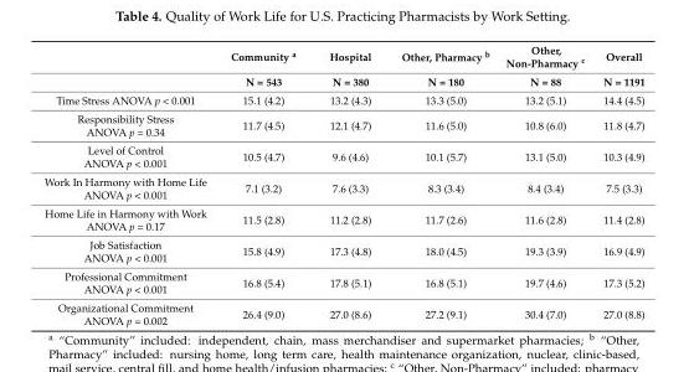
<table><thead><tr><td rowspan="2"></td><td rowspan="2">Community <sup>a</sup> N = 543</td><td rowspan="2">Hospital N = 380</td><td rowspan="2">Other, Pharmacy <sup>b</sup> N = 180</td><td rowspan="2">Other, Non-Pharmacy <sup>c</sup> N = 88</td><td rowspan="2">Overall N = 1191</td></tr><tr></tr></thead><tbody><tr><td>Time Stress ANOVA p &lt; 0.001</td><td>15.1 (4.2)</td><td>13.2 (4.3)</td><td>13.3 (5.0)</td><td>13.2 (5.1)</td><td>14.4 (4.5)</td></tr><tr><td>Responsibility Stress ANOVA p = 0.34</td><td>11.7 (4.5)</td><td>12.1 (4.7)</td><td>11.6 (5.0)</td><td>10.8 (6.0)</td><td>11.8 (4.7)</td></tr><tr><td>Level of Control ANOVA p &lt; 0.001</td><td>10.5 (4.7)</td><td>9.6 (4.6)</td><td>10.1 (5.7)</td><td>13.1 (5.0)</td><td>10.3 (4.9)</td></tr><tr><td>Work In Harmony with Home Life ANOVA p &lt; 0.001</td><td>7.1 (3.2)</td><td>7.6 (3.3)</td><td>8.3 (3.4)</td><td>8.4 (3.4)</td><td>7.5 (3.3)</td></tr><tr><td>Home Life in Harmony with Work ANOVA p = 0.17</td><td>11.5 (2.8)</td><td>11.2 (2.8)</td><td>11.7 (2.6)</td><td>11.6 (2.8)</td><td>11.4 (2.8)</td></tr><tr><td>Job Satisfaction ANOVA p &lt; 0.001</td><td>15.8 (4.9)</td><td>17.3 (4.8)</td><td>18.0 (4.5)</td><td>19.3 (3.9)</td><td>16.9 (4.9)</td></tr><tr><td>Professional Commitment ANOVA p &lt; 0.001</td><td>16.8 (5.4)</td><td>17.8 (5.1)</td><td>16.8 (5.1)</td><td>19.7 (4.6)</td><td>17.3 (5.2)</td></tr><tr><td>Organizational Commitment ANOVA p = 0.002</td><td>26.4 (9.0)</td><td>27.0 (8.6)</td><td>27.2 (9.1)</td><td>30.4 (7.0)</td><td>27.0 (8.8)</td></tr></tbody></table>